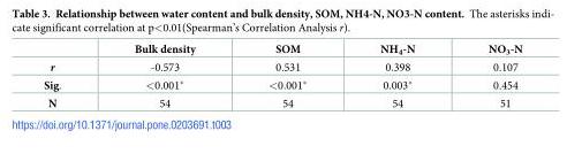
<table><thead><tr><td></td><td>Bulk density</td><td>SOM</td><td>NH<sub>4</sub>-N</td><td>NO<sub>3</sub>-N</td></tr></thead><tbody><tr><td>r</td><td>-0.573</td><td>0.531</td><td>0.398</td><td>0.107</td></tr><tr><td>Sig.</td><td>&lt;0.001*</td><td>&lt;0.001*</td><td>0.003*</td><td>0.454</td></tr><tr><td>N</td><td>54</td><td>54</td><td>54</td><td>51</td></tr></tbody></table>